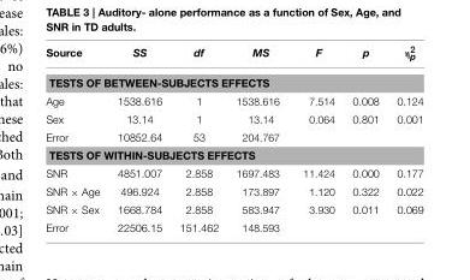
<table><thead><tr><td>Source</td><td>SS</td><td>df</td><td>MS</td><td>F</td><td>p</td><td>η<sup>2</sup><sub>p</sub></td></tr></thead><tbody><tr><td colspan="7">TESTS OF BETWEEN-SUBJECTS EFFECTS</td></tr><tr><td>Age</td><td>1538.616</td><td>1</td><td>1538.616</td><td>7.514</td><td>0.008</td><td>0.124</td></tr><tr><td>Sex</td><td>13.14</td><td>1</td><td>13.14</td><td>0.064</td><td>0.801</td><td>0.001</td></tr><tr><td>Error</td><td>10852.64</td><td>53</td><td>204.767</td><td></td><td></td><td></td></tr><tr><td colspan="7">TESTS OF WITHIN-SUBJECTS EFFECTS</td></tr><tr><td>SNR</td><td>4851.007</td><td>2.858</td><td>1697.483</td><td>11.424</td><td>0.000</td><td>0.177</td></tr><tr><td>SNR × Age</td><td>496.924</td><td>2.858</td><td>173.897</td><td>1.120</td><td>0.322</td><td>0.022</td></tr><tr><td>SNR × Sex</td><td>1668.784</td><td>2.858</td><td>583.947</td><td>3.930</td><td>0.011</td><td>0.069</td></tr><tr><td>Error</td><td>22506.15</td><td>151.462</td><td>148.593</td><td></td><td></td><td></td></tr></tbody></table>